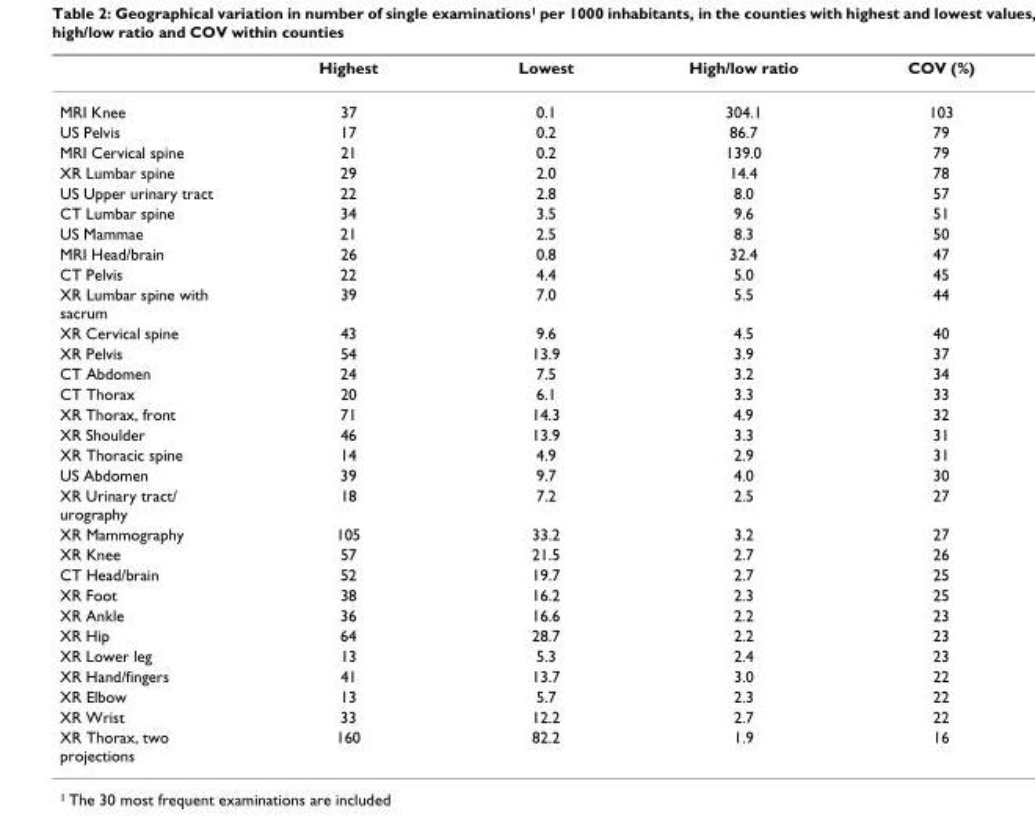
<table><thead><tr><td></td><td>Highest</td><td>Lowest</td><td>High/low ratio</td><td>COV (%)</td></tr></thead><tbody><tr><td>MRI Knee</td><td>37</td><td>0.1</td><td>304.1</td><td>103</td></tr><tr><td>US Pelvis</td><td>17</td><td>0.2</td><td>86.7</td><td>79</td></tr><tr><td>MRI Cervical spine</td><td>21</td><td>0.2</td><td>139.0</td><td>79</td></tr><tr><td>XR Lumbar spine</td><td>29</td><td>2.0</td><td>14.4</td><td>78</td></tr><tr><td>US Upper urinary tract</td><td>22</td><td>2.8</td><td>8.0</td><td>57</td></tr><tr><td>CT Lumbar spine</td><td>34</td><td>3.5</td><td>9.6</td><td>51</td></tr><tr><td>US Mammae</td><td>21</td><td>2.5</td><td>8.3</td><td>50</td></tr><tr><td>MRI Head/brain</td><td>26</td><td>0.8</td><td>32.4</td><td>47</td></tr><tr><td>CT Pelvis</td><td>22</td><td>4.4</td><td>5.0</td><td>45</td></tr><tr><td>XR Lumbar spine with sacrum</td><td>39</td><td>7.0</td><td>5.5</td><td>44</td></tr><tr><td>XR Cervical spine</td><td>43</td><td>9.6</td><td>4.5</td><td>40</td></tr><tr><td>XR Pelvis</td><td>54</td><td>13.9</td><td>3.9</td><td>37</td></tr><tr><td>CT Abdomen</td><td>24</td><td>7.5</td><td>3.2</td><td>34</td></tr><tr><td>CT Thorax</td><td>20</td><td>6.1</td><td>3.3</td><td>33</td></tr><tr><td>XR Thorax, front</td><td>71</td><td>14.3</td><td>4.9</td><td>32</td></tr><tr><td>XR Shoulder</td><td>46</td><td>13.9</td><td>3.3</td><td>31</td></tr><tr><td>XR Thoracic spine</td><td>14</td><td>4.9</td><td>2.9</td><td>31</td></tr><tr><td>US Abdomen</td><td>39</td><td>9.7</td><td>4.0</td><td>30</td></tr><tr><td>XR Urinary tract/ urography</td><td>18</td><td>7.2</td><td>2.5</td><td>27</td></tr><tr><td>XR Mammography</td><td>105</td><td>33.2</td><td>3.2</td><td>27</td></tr><tr><td>XR Knee</td><td>57</td><td>21.5</td><td>2.7</td><td>26</td></tr><tr><td>CT Head/brain</td><td>52</td><td>19.7</td><td>2.7</td><td>25</td></tr><tr><td>XR Foot</td><td>38</td><td>16.2</td><td>2.3</td><td>25</td></tr><tr><td>XR Ankle</td><td>36</td><td>16.6</td><td>2.2</td><td>23</td></tr><tr><td>XR Hip</td><td>64</td><td>28.7</td><td>2.2</td><td>23</td></tr><tr><td>XR Lower leg</td><td>13</td><td>5.3</td><td>2.4</td><td>23</td></tr><tr><td>XR Hand/fingers</td><td>41</td><td>13.7</td><td>3.0</td><td>22</td></tr><tr><td>XR Elbow</td><td>13</td><td>5.7</td><td>2.3</td><td>22</td></tr><tr><td>XR Wrist</td><td>33</td><td>12.2</td><td>2.7</td><td>22</td></tr><tr><td>XR Thorax, two projections</td><td>160</td><td>82.2</td><td>1.9</td><td>16</td></tr></tbody></table>